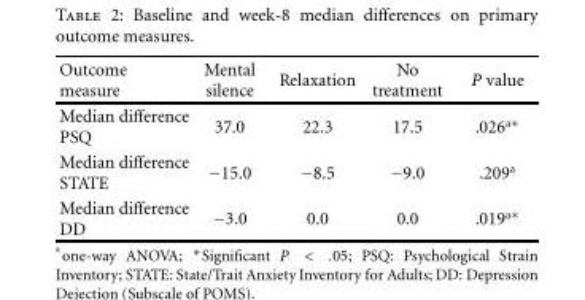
<table><thead><tr><td>Outcome measure</td><td>Mental silence</td><td>Relaxation</td><td>No treatment</td><td>P value</td></tr></thead><tbody><tr><td>Median difference PSQ</td><td>37.0</td><td>22.3</td><td>17.5</td><td>.026<sup>a∗</sup></td></tr><tr><td>Median difference STATE</td><td>−15.0</td><td>−8.5</td><td>−9.0</td><td>.209<sup>a</sup></td></tr><tr><td>Median difference DD</td><td>−3.0</td><td>0.0</td><td>0.0</td><td>.019<sup>a∗</sup></td></tr></tbody></table>